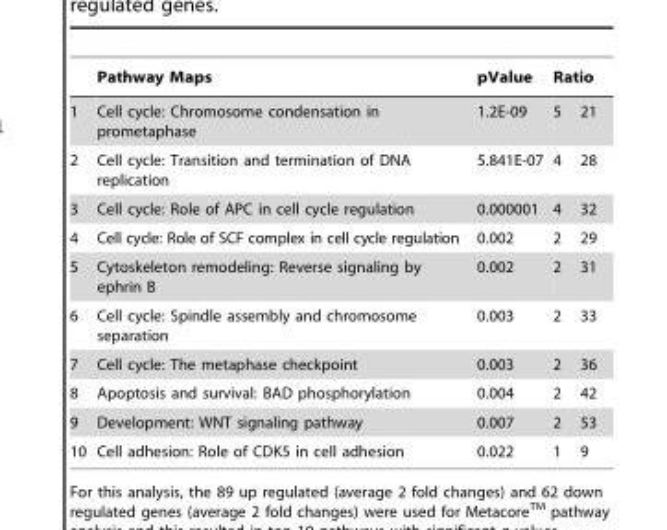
<table><thead><tr><td rowspan="2">1</td><td rowspan="2">Pathway Maps Cell cycle: Chromosome condensation in prometaphase</td><td rowspan="2">pValue 1.2E-09</td><td colspan="2">Ratio</td></tr><tr><td>5</td><td>21</td></tr></thead><tbody><tr><td>2</td><td>Cell cycle: Transition and termination of DNA replication</td><td>5.841E-07</td><td>4</td><td>28</td></tr><tr><td>3</td><td>Cell cycle: Role of APC in cell cycle regulation</td><td>0.000001</td><td>4</td><td>32</td></tr><tr><td>4</td><td>Cell cycle: Role of SCF complex in cell cycle regulation</td><td>0.002</td><td>2</td><td>29</td></tr><tr><td>5</td><td>Cytoskeleton remodeling: Reverse signaling by ephrin B</td><td>0.002</td><td>2</td><td>31</td></tr><tr><td>6</td><td>Cell cycle: Spindle assembly and chromosome separation</td><td>0.003</td><td>2</td><td>33</td></tr><tr><td>7</td><td>Cell cycle: The metaphase checkpoint</td><td>0.003</td><td>2</td><td>36</td></tr><tr><td>8</td><td>Apoptosis and survival: BAD phosphorylation</td><td>0.004</td><td>2</td><td>42</td></tr><tr><td>9</td><td>Development: WNT signaling pathway</td><td>0.007</td><td>2</td><td>53</td></tr><tr><td>10</td><td>Cell adhesion: Role of CDK5 in cell adhesion</td><td>0.022</td><td>1</td><td>9</td></tr></tbody></table>